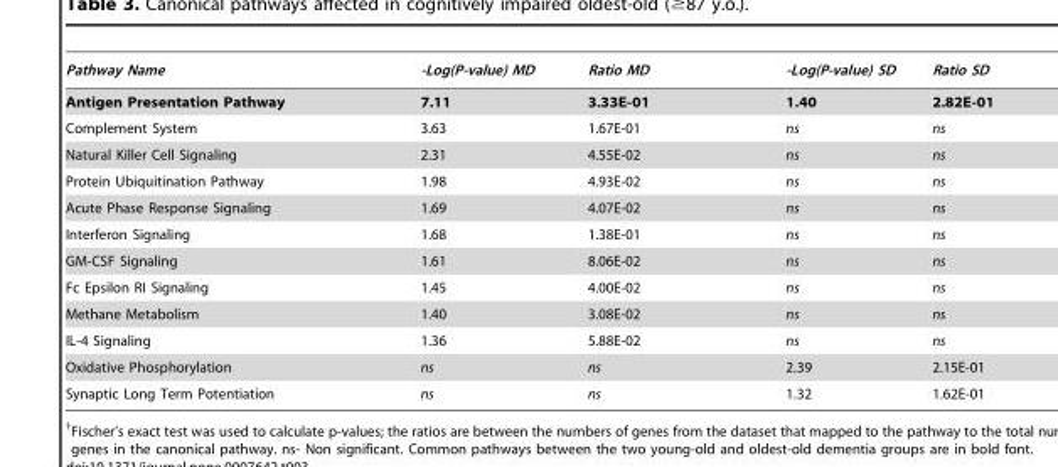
<table><thead><tr><td>Pathway Name</td><td>-Log(P-value) MD</td><td>Ratio MD</td><td>-Log(P-value) SD</td><td>Ratio SD</td></tr></thead><tbody><tr><td>Antigen Presentation Pathway</td><td>7.11</td><td>3.33E-01</td><td>1.40</td><td>2.82E-01</td></tr><tr><td>Complement System</td><td>3.63</td><td>1.67E-01</td><td>ns</td><td>ns</td></tr><tr><td>Natural Killer Cell Signaling</td><td>2.31</td><td>4.55E-02</td><td>ns</td><td>ns</td></tr><tr><td>Protein Ubiquitination Pathway</td><td>1.98</td><td>4.93E-02</td><td>ns</td><td>ns</td></tr><tr><td>Acute Phase Response Signaling</td><td>1.69</td><td>4.07E-02</td><td>ns</td><td>ns</td></tr><tr><td>Interferon Signaling</td><td>1.68</td><td>1.38E-01</td><td>ns</td><td>ns</td></tr><tr><td>GM-CSF Signaling</td><td>1.61</td><td>8.06E-02</td><td>ns</td><td>ns</td></tr><tr><td>Fc Epsilon RI Signaling</td><td>1.45</td><td>4.00E-02</td><td>ns</td><td>ns</td></tr><tr><td>Methane Metabolism</td><td>1.40</td><td>3.08E-02</td><td>ns</td><td>ns</td></tr><tr><td>IL-4 Signaling</td><td>1.36</td><td>5.88E-02</td><td>ns</td><td>ns</td></tr><tr><td>Oxidative Phosphorylation</td><td>ns</td><td>ns</td><td>2.39</td><td>2.15E-01</td></tr><tr><td>Synaptic Long Term Potentiation</td><td>ns</td><td>ns</td><td>1.32</td><td>1.62E-01</td></tr></tbody></table>